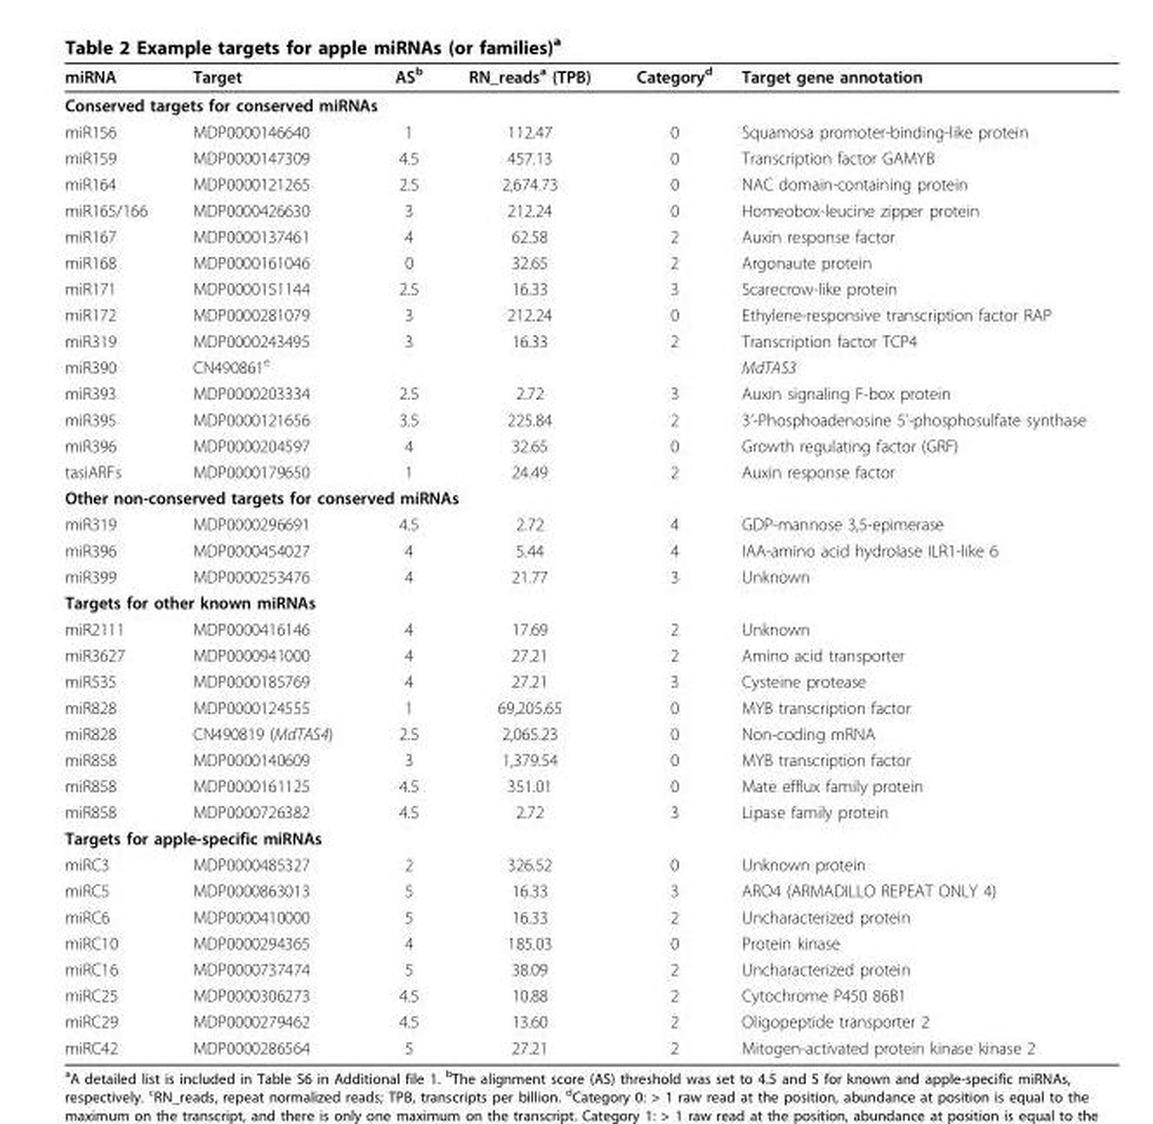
<table><thead><tr><td>miRNA</td><td>Target</td><td>AS<sup>b</sup></td><td>RN_reads<sup>a</sup> (TPB)</td><td>Category<sup>d</sup></td><td>Target gene annotation</td></tr></thead><tbody><tr><td colspan="6">Conserved targets for conserved miRNAs</td></tr><tr><td>miR156</td><td>MDP0000146640</td><td>1</td><td>112.47</td><td>0</td><td>Squamosa promoter-binding-like protein</td></tr><tr><td>miR159</td><td>MDP0000147309</td><td>4.5</td><td>457.13</td><td>0</td><td>Transcription factor GAMYB</td></tr><tr><td>miR164</td><td>MDP0000121265</td><td>2.5</td><td>2,674.73</td><td>0</td><td>NAC domain-containing protein</td></tr><tr><td>miR165/166</td><td>MDP0000426630</td><td>3</td><td>212.24</td><td>0</td><td>Homeobox-leucine zipper protein</td></tr><tr><td>miR167</td><td>MDP0000137461</td><td>4</td><td>62.58</td><td>2</td><td>Auxin response factor</td></tr><tr><td>miR168</td><td>MDP0000161046</td><td>0</td><td>32.65</td><td>2</td><td>Argonaute protein</td></tr><tr><td>miR171</td><td>MDP0000151144</td><td>2.5</td><td>16.33</td><td>3</td><td>Scarecrow-like protein</td></tr><tr><td>miR172</td><td>MDP0000281079</td><td>3</td><td>212.24</td><td>0</td><td>Ethylene-responsive transcription factor RAP</td></tr><tr><td>miR319</td><td>MDP0000243495</td><td>3</td><td>16.33</td><td>2</td><td>Transcription factor TCP4</td></tr><tr><td>miR390</td><td>CN490861<sup>e</sup></td><td></td><td></td><td></td><td>MdTAS3</td></tr><tr><td>miR393</td><td>MDP0000203334</td><td>2.5</td><td>2.72</td><td>3</td><td>Auxin signaling F-box protein</td></tr><tr><td>miR395</td><td>MDP0000121656</td><td>3.5</td><td>225.84</td><td>2</td><td>3’-Phosphoadenosine 5’-phosphosulfate synthase</td></tr><tr><td>miR396</td><td>MDP0000204597</td><td>4</td><td>32.65</td><td>0</td><td>Growth regulating factor (GRF)</td></tr><tr><td>tasiARFs</td><td>MDP0000179650</td><td>1</td><td>24.49</td><td>2</td><td>Auxin response factor</td></tr><tr><td colspan="6">Other non-conserved targets for conserved miRNAs</td></tr><tr><td>miR319</td><td>MDP0000296691</td><td>4.5</td><td>2.72</td><td>4</td><td>GDP-mannose 3,5-epimerase</td></tr><tr><td>miR396</td><td>MDP0000454027</td><td>4</td><td>5.44</td><td>4</td><td>IAA-amino acid hydrolase ILR1-like 6</td></tr><tr><td>miR399</td><td>MDP0000253476</td><td>4</td><td>21.77</td><td>3</td><td>Unknown</td></tr><tr><td colspan="6">Targets for other known miRNAs</td></tr><tr><td>miR2111</td><td>MDP0000416146</td><td>4</td><td>17.69</td><td>2</td><td>Unknown</td></tr><tr><td>miR3627</td><td>MDP0000941000</td><td>4</td><td>27.21</td><td>2</td><td>Amino acid transporter</td></tr><tr><td>miR535</td><td>MDP0000185769</td><td>4</td><td>27.21</td><td>3</td><td>Cysteine protease</td></tr><tr><td>miR828</td><td>MDP0000124555</td><td>1</td><td>69,205.65</td><td>0</td><td>MYB transcription factor</td></tr><tr><td>miR828</td><td>CN490819 (MdTAS4)</td><td>2.5</td><td>2,065.23</td><td>0</td><td>Non-coding mRNA</td></tr><tr><td>miR858</td><td>MDP0000140609</td><td>3</td><td>1,379.54</td><td>0</td><td>MYB transcription factor</td></tr><tr><td>miR858</td><td>MDP0000161125</td><td>4.5</td><td>351.01</td><td>0</td><td>Mate efflux family protein</td></tr><tr><td>miR858</td><td>MDP0000726382</td><td>4.5</td><td>2.72</td><td>3</td><td>Lipase family protein</td></tr><tr><td colspan="6">Targets for apple-specific miRNAs</td></tr><tr><td>miRC3</td><td>MDP0000485327</td><td>2</td><td>326.52</td><td>0</td><td>Unknown protein</td></tr><tr><td>miRC5</td><td>MDP0000863013</td><td>5</td><td>16.33</td><td>3</td><td>ARO4 (ARMADILLO REPEAT ONLY 4)</td></tr><tr><td>miRC6</td><td>MDP0000410000</td><td>5</td><td>16.33</td><td>2</td><td>Uncharacterized protein</td></tr><tr><td>miRC10</td><td>MDP0000294365</td><td>4</td><td>185.03</td><td>0</td><td>Protein kinase</td></tr><tr><td>miRC16</td><td>MDP0000737474</td><td>5</td><td>38.09</td><td>2</td><td>Uncharacterized protein</td></tr><tr><td>miRC25</td><td>MDP0000306273</td><td>4.5</td><td>10.88</td><td>2</td><td>Cytochrome P450 86B1</td></tr><tr><td>miRC29</td><td>MDP0000279462</td><td>4.5</td><td>13.60</td><td>2</td><td>Oligopeptide transporter 2</td></tr><tr><td>miRC42</td><td>MDP0000286564</td><td>5</td><td>27.21</td><td>2</td><td>Mitogen-activated protein kinase kinase 2</td></tr></tbody></table>